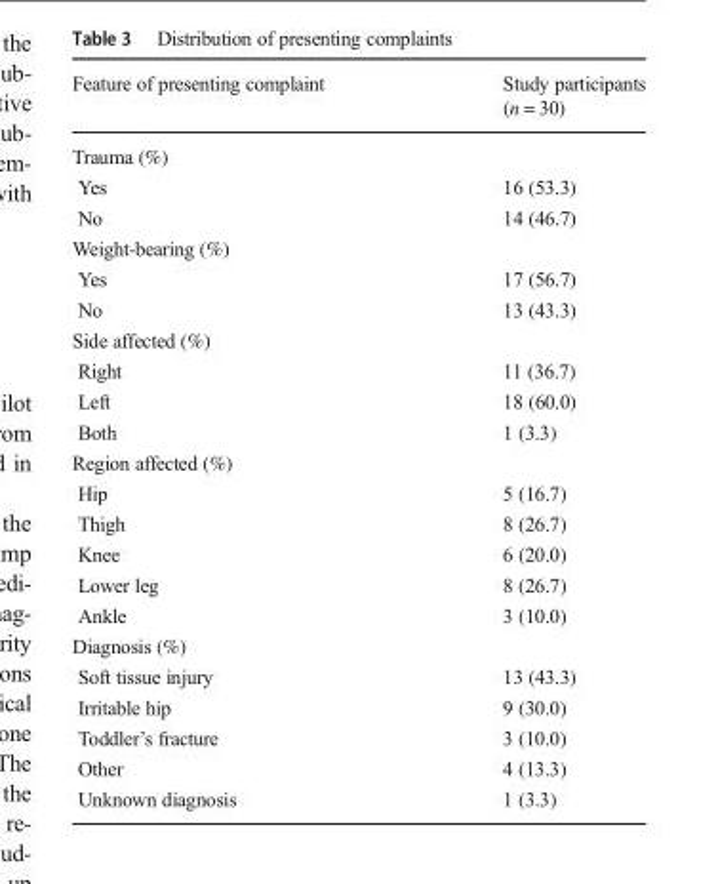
<table><thead><tr><td>Feature of presenting complaint</td><td>Study participants (n = 30)</td></tr></thead><tbody><tr><td colspan="2">Trauma (%)</td></tr><tr><td>Yes</td><td>16 (53.3)</td></tr><tr><td>No</td><td>14 (46.7)</td></tr><tr><td colspan="2">Weight-bearing (%)</td></tr><tr><td>Yes</td><td>17 (56.7)</td></tr><tr><td>No</td><td>13 (43.3)</td></tr><tr><td colspan="2">Side affected (%)</td></tr><tr><td>Right</td><td>11 (36.7)</td></tr><tr><td>Left</td><td>18 (60.0)</td></tr><tr><td>Both</td><td>1 (3.3)</td></tr><tr><td colspan="2">Region affected (%)</td></tr><tr><td>Hip</td><td>5 (16.7)</td></tr><tr><td>Thigh</td><td>8 (26.7)</td></tr><tr><td>Knee</td><td>6 (20.0)</td></tr><tr><td>Lower leg</td><td>8 (26.7)</td></tr><tr><td>Ankle</td><td>3 (10.0)</td></tr><tr><td colspan="2">Diagnosis (%)</td></tr><tr><td>Soft tissue injury</td><td>13 (43.3)</td></tr><tr><td>Irritable hip</td><td>9 (30.0)</td></tr><tr><td>Toddler’s fracture</td><td>3 (10.0)</td></tr><tr><td>Other</td><td>4 (13.3)</td></tr><tr><td>Unknown diagnosis</td><td>1 (3.3)</td></tr></tbody></table>